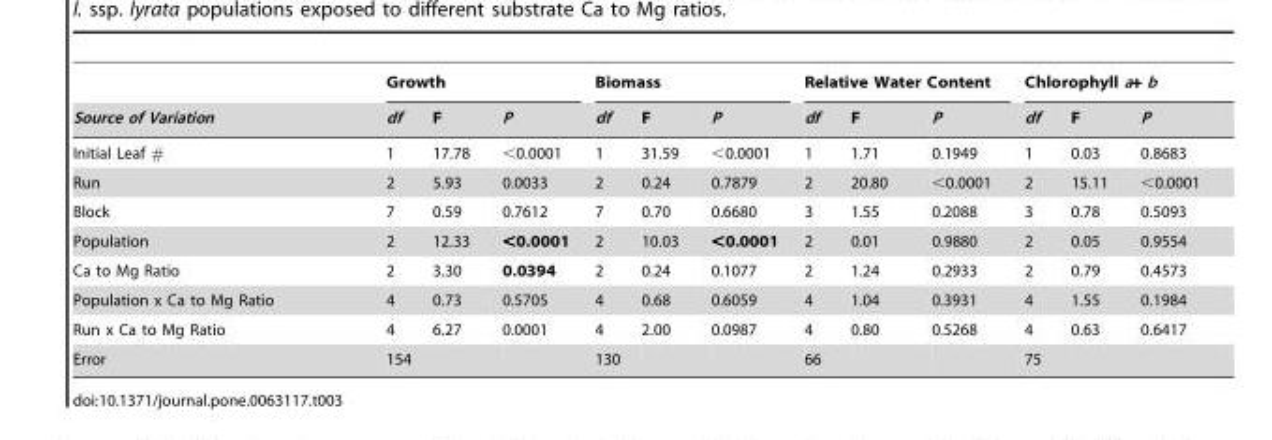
<table><thead><tr><td rowspan="2">Source of Variation</td><td colspan="3">Growth</td><td colspan="3">Biomass</td><td colspan="3">Relative Water Content</td><td colspan="3">Chlorophyll a+ b</td></tr><tr><td>df</td><td>F</td><td>P</td><td>df</td><td>F</td><td>P</td><td>df</td><td>F</td><td>P</td><td>df</td><td>F</td><td>P</td></tr></thead><tbody><tr><td>Initial Leaf #</td><td>1</td><td>17.78</td><td>&lt;0.0001</td><td>1</td><td>31.59</td><td>&lt;0.0001</td><td>1</td><td>1.71</td><td>0.1949</td><td>1</td><td>0.03</td><td>0.8683</td></tr><tr><td>Run</td><td>2</td><td>5.93</td><td>0.0033</td><td>2</td><td>0.24</td><td>0.7879</td><td>2</td><td>20.80</td><td>&lt;0.0001</td><td>2</td><td>15.11</td><td>&lt;0.0001</td></tr><tr><td>Block</td><td>7</td><td>0.59</td><td>0.7612</td><td>7</td><td>0.70</td><td>0.6680</td><td>3</td><td>1.55</td><td>0.2088</td><td>3</td><td>0.78</td><td>0.5093</td></tr><tr><td>Population</td><td>2</td><td>12.33</td><td>&lt;0.0001</td><td>2</td><td>10.03</td><td>&lt;0.0001</td><td>2</td><td>0.01</td><td>0.9880</td><td>2</td><td>0.05</td><td>0.9554</td></tr><tr><td>Ca to Mg Ratio</td><td>2</td><td>3.30</td><td>0.0394</td><td>2</td><td>0.24</td><td>0.1077</td><td>2</td><td>1.24</td><td>0.2933</td><td>2</td><td>0.79</td><td>0.4573</td></tr><tr><td>Population x Ca to Mg Ratio</td><td>4</td><td>0.73</td><td>0.5705</td><td>4</td><td>0.68</td><td>0.6059</td><td>4</td><td>1.04</td><td>0.3931</td><td>4</td><td>1.55</td><td>0.1984</td></tr><tr><td>Run x Ca to Mg Ratio</td><td>4</td><td>6.27</td><td>0.0001</td><td>4</td><td>2.00</td><td>0.0987</td><td>4</td><td>0.80</td><td>0.5268</td><td>4</td><td>0.63</td><td>0.6417</td></tr><tr><td>Error</td><td>154</td><td></td><td></td><td>130</td><td></td><td></td><td>66</td><td></td><td></td><td>75</td><td></td><td></td></tr></tbody></table>